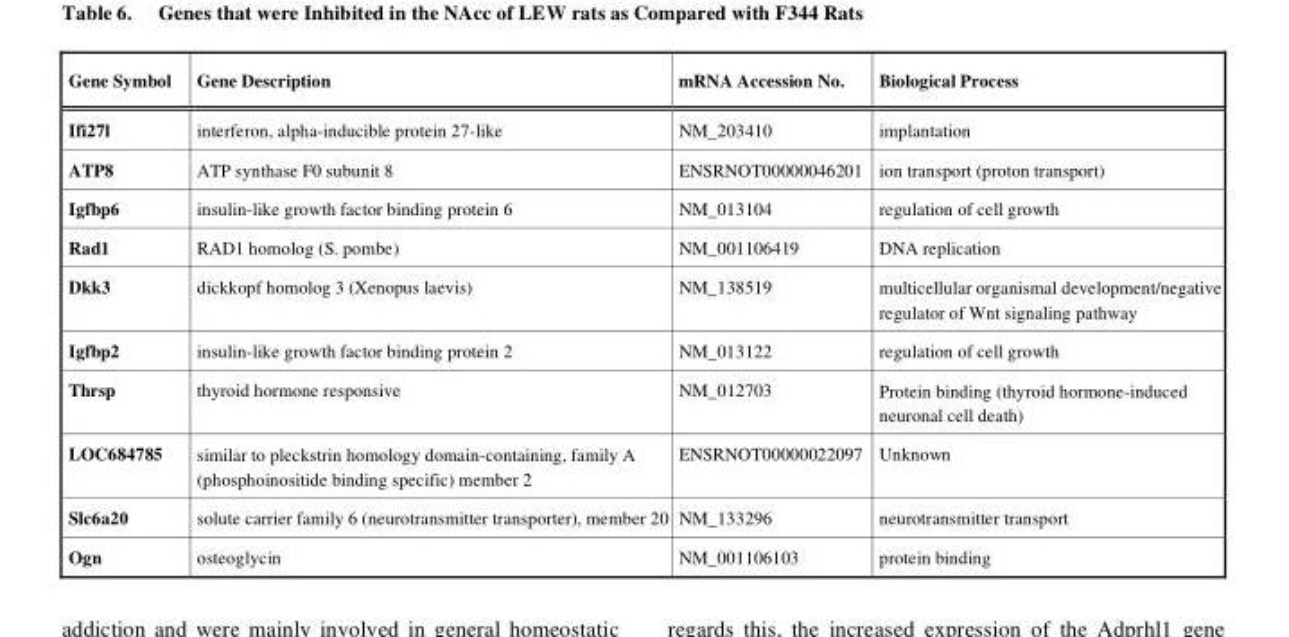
<table><thead><tr><td>Gene Symbol</td><td>Gene Description</td><td>mRNA Accession No.</td><td>Biological Process</td></tr></thead><tbody><tr><td>Ifi27l</td><td>interferon, alpha-inducible protein 27-like</td><td>NM_203410</td><td>implantation</td></tr><tr><td>ATP8</td><td>ATP synthase F0 subunit 8</td><td>ENSRNOT00000046201</td><td>ion transport (proton transport)</td></tr><tr><td>Igfbp6</td><td>insulin-like growth factor binding protein 6</td><td>NM_013104</td><td>regulation of cell growth</td></tr><tr><td>Rad1</td><td>RAD1 homolog (S. pombe)</td><td>NM_001106419</td><td>DNA replication</td></tr><tr><td>Dkk3</td><td>dickkopf homolog 3 (Xenopus laevis)</td><td>NM_138519</td><td>multicellular organismal development/negative regulator of Wnt signaling pathway</td></tr><tr><td>Igfbp2</td><td>insulin-like growth factor binding protein 2</td><td>NM_013122</td><td>regulation of cell growth</td></tr><tr><td>Thrsp</td><td>thyroid hormone responsive</td><td>NM_012703</td><td>Protein binding (thyroid hormone-induced neuronal cell death)</td></tr><tr><td>LOC684785</td><td>similar to pleckstrin homology domain-containing, family A (phosphoinositide binding specific) member 2</td><td>ENSRNOT00000022097</td><td>Unknown</td></tr><tr><td>Slc6a20</td><td>solute carrier family 6 (neurotransmitter transporter), member 20</td><td>NM_133296</td><td>neurotransmitter transport</td></tr><tr><td>Ogn</td><td>osteoglycin</td><td>NM_001106103</td><td>protein binding</td></tr></tbody></table>